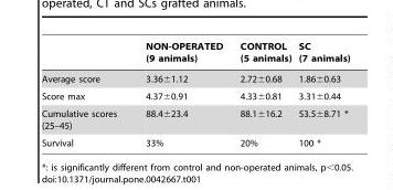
<table><thead><tr><td></td><td>NON-OPERATED (9 animals)</td><td>CONTROL (5 animals)</td><td>SC (7 animals)</td></tr></thead><tbody><tr><td>Average score</td><td>3.36±1.12</td><td>2.72±0.68</td><td>1.86±0.63</td></tr><tr><td>Score max</td><td>4.37±0.91</td><td>4.33±0.81</td><td>3.31±0.44</td></tr><tr><td>Cumulative scores (25–45)</td><td>88.4±23.4</td><td>88.1±16.2</td><td>53.5±8.71 *</td></tr><tr><td>Survival</td><td>33%</td><td>20%</td><td>100 *</td></tr></tbody></table>